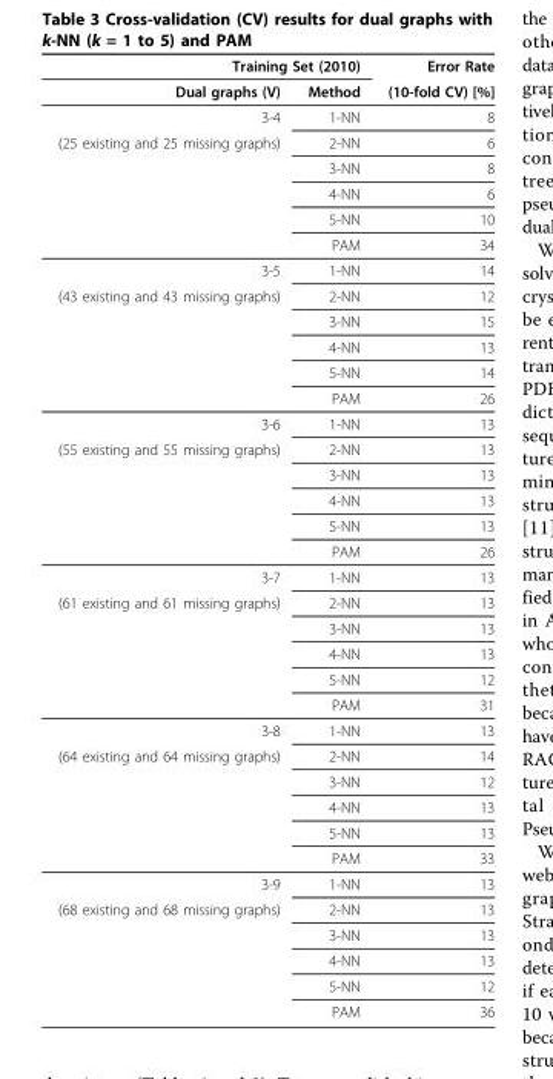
<table><thead><tr><td colspan="2">Training Set (2010)</td><td rowspan="2">Error Rate (10-fold CV) [%]</td></tr><tr><td>Dual graphs (V)</td><td>Method</td></tr></thead><tbody><tr><td>3-4</td><td>1-NN</td><td>8</td></tr><tr><td rowspan="5">(25 existing and 25 missing graphs)</td><td>2-NN</td><td>6</td></tr><tr><td>3-NN</td><td>8</td></tr><tr><td>4-NN</td><td>6</td></tr><tr><td>5-NN</td><td>10</td></tr><tr><td>PAM</td><td>34</td></tr><tr><td>3-5</td><td>1-NN</td><td>14</td></tr><tr><td rowspan="5">(43 existing and 43 missing graphs)</td><td>2-NN</td><td>12</td></tr><tr><td>3-NN</td><td>15</td></tr><tr><td>4-NN</td><td>13</td></tr><tr><td>5-NN</td><td>14</td></tr><tr><td>PAM</td><td>26</td></tr><tr><td>3-6</td><td>1-NN</td><td>13</td></tr><tr><td rowspan="5">(55 existing and 55 missing graphs)</td><td>2-NN</td><td>13</td></tr><tr><td>3-NN</td><td>13</td></tr><tr><td>4-NN</td><td>13</td></tr><tr><td>5-NN</td><td>13</td></tr><tr><td>PAM</td><td>26</td></tr><tr><td>3-7</td><td>1-NN</td><td>13</td></tr><tr><td rowspan="5">(61 existing and 61 missing graphs)</td><td>2-NN</td><td>13</td></tr><tr><td>3-NN</td><td>13</td></tr><tr><td>4-NN</td><td>13</td></tr><tr><td>5-NN</td><td>12</td></tr><tr><td>PAM</td><td>31</td></tr><tr><td>3-8</td><td>1-NN</td><td>13</td></tr><tr><td rowspan="5">(64 existing and 64 missing graphs)</td><td>2-NN</td><td>14</td></tr><tr><td>3-NN</td><td>12</td></tr><tr><td>4-NN</td><td>13</td></tr><tr><td>5-NN</td><td>13</td></tr><tr><td>PAM</td><td>33</td></tr><tr><td>3-9</td><td>1-NN</td><td>13</td></tr><tr><td rowspan="5">(68 existing and 68 missing graphs)</td><td>2-NN</td><td>13</td></tr><tr><td>3-NN</td><td>13</td></tr><tr><td>4-NN</td><td>13</td></tr><tr><td>5-NN</td><td>12</td></tr><tr><td>PAM</td><td>36</td></tr></tbody></table>